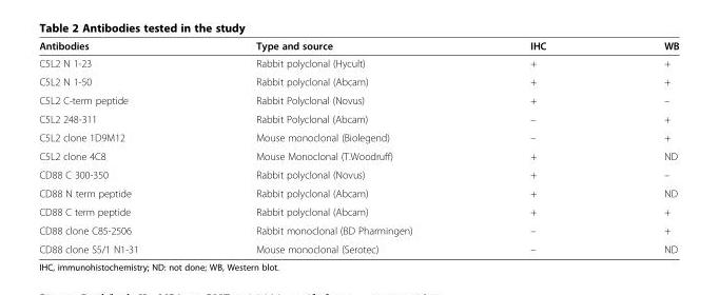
<table><thead><tr><td>Antibodies</td><td>Type and source</td><td>IHC</td><td>WB</td></tr></thead><tbody><tr><td>C5L2 N 1-23</td><td>Rabbit polyclonal (Hycult)</td><td>+</td><td>+</td></tr><tr><td>C5L2 N 1-50</td><td>Rabbit polyclonal (Abcam)</td><td>+</td><td>+</td></tr><tr><td>C5L2 C-term peptide</td><td>Rabbit Polyclonal (Novus)</td><td>+</td><td>–</td></tr><tr><td>C5L2 248-311</td><td>Rabbit Polyclonal (Abcam)</td><td>–</td><td>+</td></tr><tr><td>C5L2 clone 1D9M12</td><td>Mouse monoclonal (Biolegend)</td><td>–</td><td>+</td></tr><tr><td>C5L2 clone 4C8</td><td>Mouse Monoclonal (T.Woodruff)</td><td>+</td><td>ND</td></tr><tr><td>CD88 C 300-350</td><td>Rabbit polyclonal (Novus)</td><td>+</td><td>–</td></tr><tr><td>CD88 N term peptide</td><td>Rabbit polyclonal (Abcam)</td><td>+</td><td>ND</td></tr><tr><td>CD88 C term peptide</td><td>Rabbit polyclonal (Abcam)</td><td>+</td><td>+</td></tr><tr><td>CD88 clone C85-2506</td><td>Rabbit monoclonal (BD Pharmingen)</td><td>–</td><td>+</td></tr><tr><td>CD88 clone S5/1 N1-31</td><td>Mouse monoclonal (Serotec)</td><td>–</td><td>ND</td></tr></tbody></table>